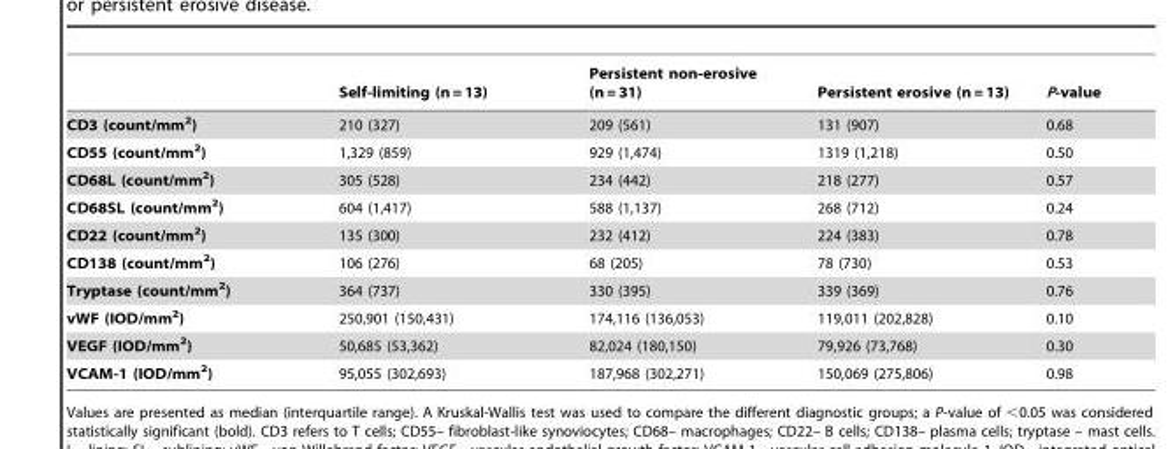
<table><thead><tr><td></td><td>Self-limiting (n = 13)</td><td>Persistent non-erosive (n = 31)</td><td>Persistent erosive (n = 13)</td><td>P-value</td></tr></thead><tbody><tr><td>CD3 (count/mm<sup>2</sup>)</td><td>210 (327)</td><td>209 (561)</td><td>131 (907)</td><td>0.68</td></tr><tr><td>CD55 (count/mm<sup>2</sup>)</td><td>1,329 (859)</td><td>929 (1,474)</td><td>1319 (1,218)</td><td>0.50</td></tr><tr><td>CD68L (count/mm<sup>2</sup>)</td><td>305 (528)</td><td>234 (442)</td><td>218 (277)</td><td>0.57</td></tr><tr><td>CD68SL (count/mm<sup>2</sup>)</td><td>604 (1,417)</td><td>588 (1,137)</td><td>268 (712)</td><td>0.24</td></tr><tr><td>CD22 (count/mm<sup>2</sup>)</td><td>135 (300)</td><td>232 (412)</td><td>224 (383)</td><td>0.78</td></tr><tr><td>CD138 (count/mm<sup>2</sup>)</td><td>106 (276)</td><td>68 (205)</td><td>78 (730)</td><td>0.53</td></tr><tr><td>Tryptase (count/mm<sup>2</sup>)</td><td>364 (737)</td><td>330 (395)</td><td>339 (369)</td><td>0.76</td></tr><tr><td>vWF (IOD/mm<sup>2</sup>)</td><td>250,901 (150,431)</td><td>174,116 (136,053)</td><td>119,011 (202,828)</td><td>0.10</td></tr><tr><td>VEGF (IOD/mm<sup>2</sup>)</td><td>50,685 (53,362)</td><td>82,024 (180,150)</td><td>79,926 (73,768)</td><td>0.30</td></tr><tr><td>VCAM-1 (IOD/mm<sup>2</sup>)</td><td>95,055 (302,693)</td><td>187,968 (302,271)</td><td>150,069 (275,806)</td><td>0.98</td></tr></tbody></table>